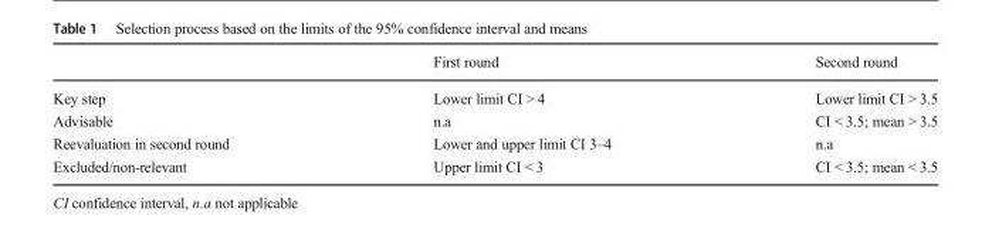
<table><thead><tr><td></td><td>First round</td><td>Second round</td></tr></thead><tbody><tr><td>Key step</td><td>Lower limit CI &gt; 4</td><td>Lower limit CI &gt; 3.5</td></tr><tr><td>Advisable</td><td>n.a</td><td>CI &lt; 3.5; mean &gt; 3.5</td></tr><tr><td>Reevaluation in second round</td><td>Lower and upper limit CI 3–4</td><td>n.a</td></tr><tr><td>Excluded/non-relevant</td><td>Upper limit CI &lt; 3</td><td>CI &lt; 3.5; mean &lt; 3.5</td></tr></tbody></table>